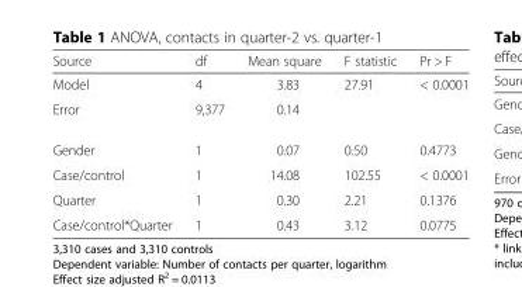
<table><thead><tr><td>Source</td><td>df</td><td>Mean square</td><td>F statistic</td><td>Pr &gt; F</td></tr></thead><tbody><tr><td>Model</td><td>4</td><td>3.83</td><td>27.91</td><td>&lt; 0.0001</td></tr><tr><td>Error</td><td>9,377</td><td>0.14</td><td></td><td></td></tr><tr><td>Gender</td><td>1</td><td>0.07</td><td>0.50</td><td>0.4773</td></tr><tr><td>Case/control</td><td>1</td><td>14.08</td><td>102.55</td><td>&lt; 0.0001</td></tr><tr><td>Quarter</td><td>1</td><td>0.30</td><td>2.21</td><td>0.1376</td></tr><tr><td>Case/control*Quarter</td><td>1</td><td>0.43</td><td>3.12</td><td>0.0775</td></tr></tbody></table>